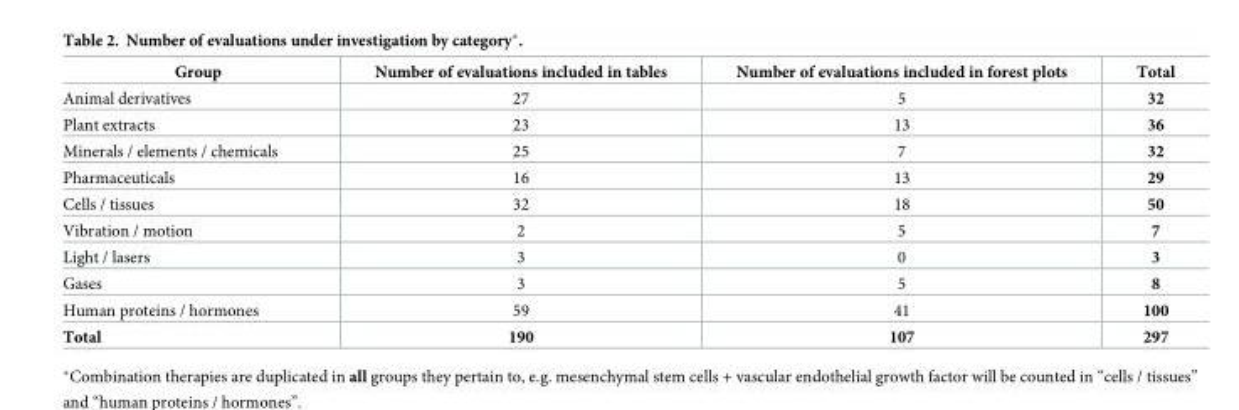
<table><thead><tr><td>Group</td><td>Number of evaluations included in tables</td><td>Number of evaluations included in forest plots</td><td>Total</td></tr></thead><tbody><tr><td>Animal derivatives</td><td>27</td><td>5</td><td>32</td></tr><tr><td>Plant extracts</td><td>23</td><td>13</td><td>36</td></tr><tr><td>Minerals / elements / chemicals</td><td>25</td><td>7</td><td>32</td></tr><tr><td>Pharmaceuticals</td><td>16</td><td>13</td><td>29</td></tr><tr><td>Cells / tissues</td><td>32</td><td>18</td><td>50</td></tr><tr><td>Vibration / motion</td><td>2</td><td>5</td><td>7</td></tr><tr><td>Light / lasers</td><td>3</td><td>0</td><td>3</td></tr><tr><td>Gases</td><td>3</td><td>5</td><td>8</td></tr><tr><td>Human proteins / hormones</td><td>59</td><td>41</td><td>100</td></tr><tr><td>Total</td><td>190</td><td>107</td><td>297</td></tr></tbody></table>